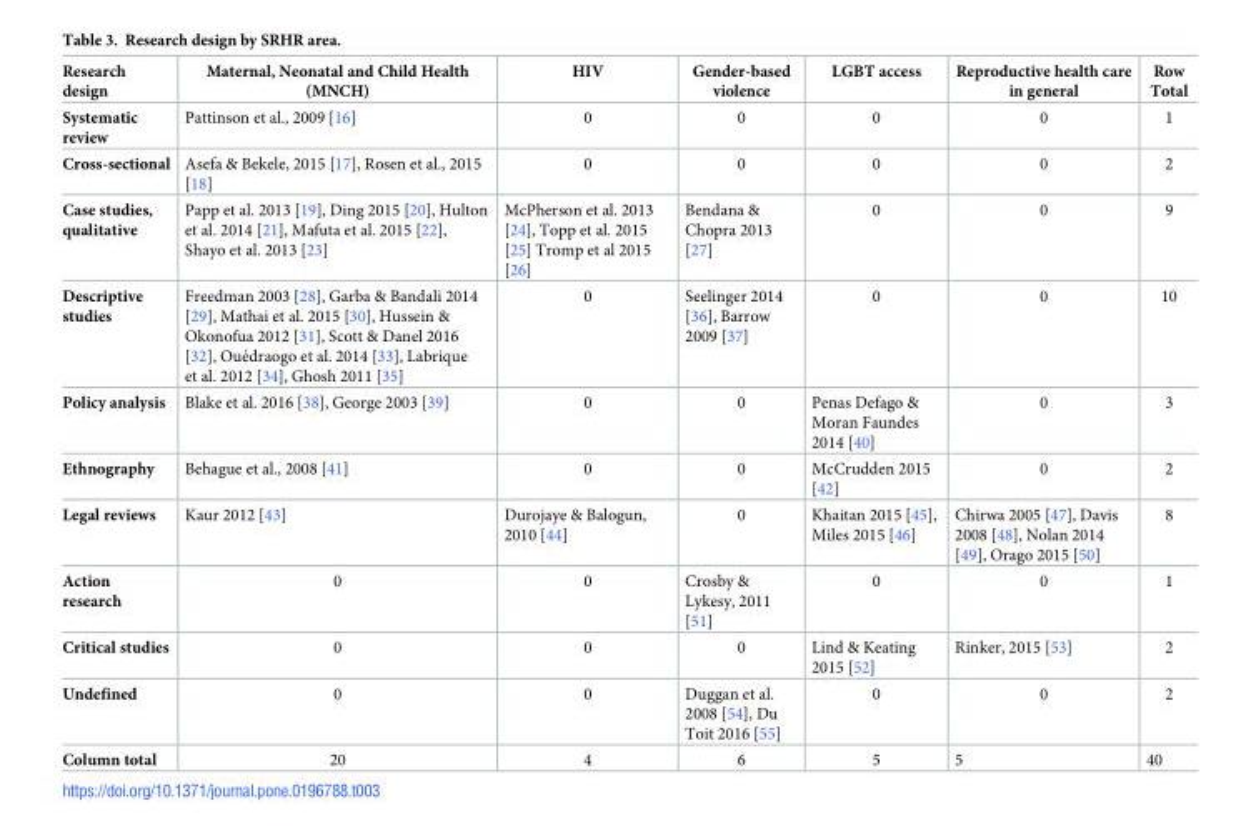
<table><thead><tr><td>Research design</td><td>Maternal, Neonatal and Child Health (MNCH)</td><td>HIV</td><td>Gender-based violence</td><td>LGBT access</td><td>Reproductive health care in general</td><td>Row Total</td></tr></thead><tbody><tr><td>Systematic review</td><td>Pattinson et al., 2009 [16]</td><td>0</td><td>0</td><td>0</td><td>0</td><td>1</td></tr><tr><td>Cross-sectional</td><td>Asefa &amp; Bekele, 2015 [17], Rosen et al., 2015 [18]</td><td>0</td><td>0</td><td>0</td><td>0</td><td>2</td></tr><tr><td>Case studies, qualitative</td><td>Papp et al. 2013 [19], Ding 2015 [20], Hulton et al. 2014 [21], Mafuta et al. 2015 [22], Shayo et al. 2013 [23]</td><td>McPherson et al. 2013 [24], Topp et al. 2015 [25] Tromp et al 2015 [26]</td><td>Bendana &amp; Chopra 2013 [27]</td><td>0</td><td>0</td><td>9</td></tr><tr><td>Descriptive studies</td><td>Freedman 2003 [28], Garba &amp; Bandali 2014 [29], Mathai et al. 2015 [30], Hussein &amp; Okonofua 2012 [31], Scott &amp; Danel 2016 [32], Oue´draogo et al. 2014 [33], Labrique et al. 2012 [34], Ghosh 2011 [35]</td><td>0</td><td>Seelinger 2014 [36], Barrow 2009 [37]</td><td>0</td><td>0</td><td>10</td></tr><tr><td>Policy analysis</td><td>Blake et al. 2016 [38], George 2003 [39]</td><td>0</td><td>0</td><td>Penas Defago &amp; Moran Faundes 2014 [40]</td><td>0</td><td>3</td></tr><tr><td>Ethnography</td><td>Behague et al., 2008 [41]</td><td>0</td><td>0</td><td>McCrudden 2015 [42]</td><td>0</td><td>2</td></tr><tr><td>Legal reviews</td><td>Kaur 2012 [43]</td><td>Durojaye &amp; Balogun, 2010 [44]</td><td>0</td><td>Khaitan 2015 [45], Miles 2015 [46]</td><td>Chirwa 2005 [47], Davis 2008 [48], Nolan 2014 [49], Orago 2015 [50]</td><td>8</td></tr><tr><td>Action research</td><td>0</td><td>0</td><td>Crosby &amp; Lykesy, 2011 [51]</td><td>0</td><td>0</td><td>1</td></tr><tr><td>Critical studies</td><td>0</td><td>0</td><td>0</td><td>Lind &amp; Keating 2015 [52]</td><td>Rinker, 2015 [53]</td><td>2</td></tr><tr><td>Undefined</td><td>0</td><td>0</td><td>Duggan et al. 2008 [54], Du Toit 2016 [55]</td><td>0</td><td>0</td><td>2</td></tr><tr><td>Column total</td><td>20</td><td>4</td><td>6</td><td>5</td><td>5</td><td>40</td></tr></tbody></table>